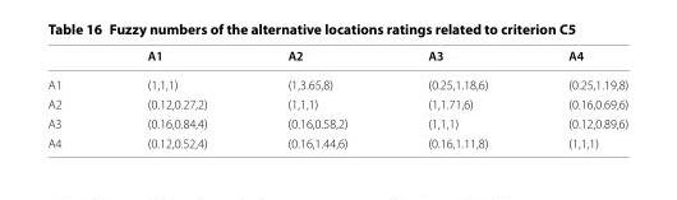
<table><thead><tr><td></td><td>A1</td><td>A2</td><td>A3</td><td>A4</td></tr></thead><tbody><tr><td>A1</td><td>(1,1,1)</td><td>(1,3.65,8)</td><td>(0.25,1.18,6)</td><td>(0.25,1.19,8)</td></tr><tr><td>A2</td><td>(0.12,0.27,2)</td><td>(1,1,1)</td><td>(1,1.71,6)</td><td>(0.16,0.69,6)</td></tr><tr><td>A3</td><td>(0.16,0.84,4)</td><td>(0.16,0.58,2)</td><td>(1,1,1)</td><td>(0.12,0.89,6)</td></tr><tr><td>A4</td><td>(0.12,0.52,4)</td><td>(0.16,1.44,6)</td><td>(0.16,1.11,8)</td><td>(1,1,1)</td></tr></tbody></table>